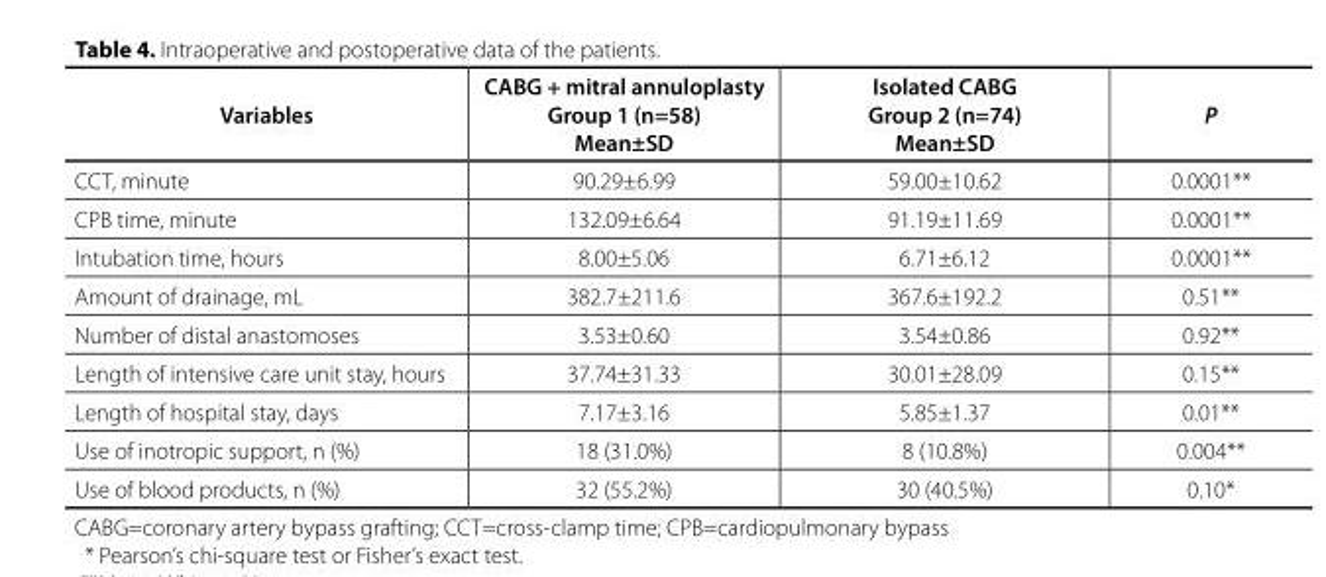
<table><thead><tr><td>Variables</td><td>CABG + mitral annuloplasty Group 1 (n=58) Mean±SD</td><td>Isolated CABG Group 2 (n=74) Mean±SD</td><td>P</td></tr></thead><tbody><tr><td>CCT, minute</td><td>90.29±6.99</td><td>59.00±10.62</td><td>0.0001**</td></tr><tr><td>CPB time, minute</td><td>132.09±6.64</td><td>91.19±11.69</td><td>0.0001**</td></tr><tr><td>Intubation time, hours</td><td>8.00±5.06</td><td>6.71±6.12</td><td>0.0001**</td></tr><tr><td>Amount of drainage, mL</td><td>382.7±211.6</td><td>367.6±192.2</td><td>0.51**</td></tr><tr><td>Number of distal anastomoses</td><td>3.53±0.60</td><td>3.54±0.86</td><td>0.92**</td></tr><tr><td>Length of intensive care unit stay, hours</td><td>37.74±31.33</td><td>30.01±28.09</td><td>0.15**</td></tr><tr><td>Length of hospital stay, days</td><td>7.17±3.16</td><td>5.85±1.37</td><td>0.01**</td></tr><tr><td>Use of inotropic support, n (%)</td><td>18 (31.0%)</td><td>8 (10.8%)</td><td>0.004**</td></tr><tr><td>Use of blood products, n (%)</td><td>32 (55.2%)</td><td>30 (40.5%)</td><td>0.10*</td></tr></tbody></table>